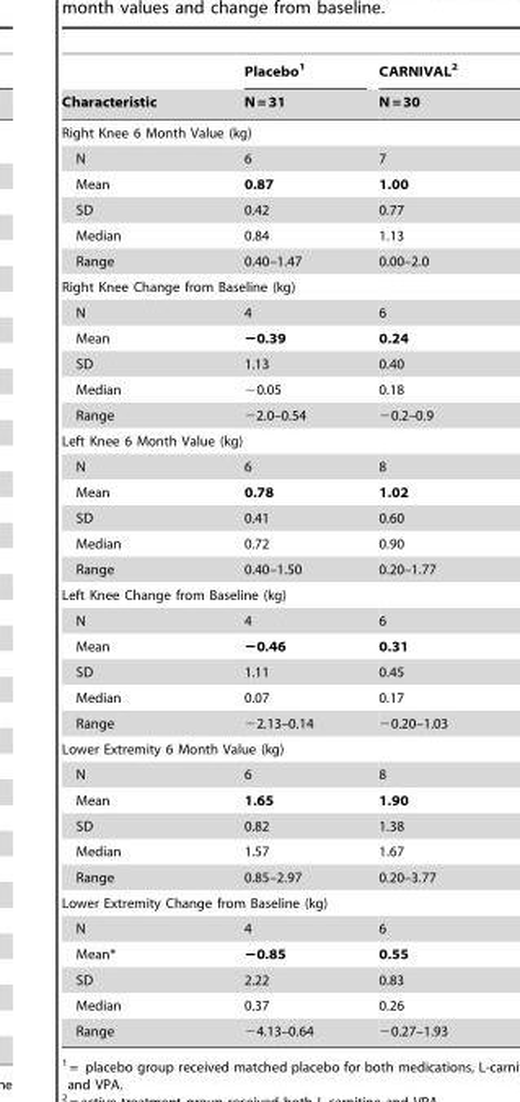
<table><thead><tr><td rowspan="2">Characteristic</td><td rowspan="2">Placebo<sup>1</sup> N = 31</td><td rowspan="2">CARNIVAL<sup>2</sup> N = 30</td></tr><tr></tr></thead><tbody><tr><td colspan="3">Right Knee 6 Month Value (kg)</td></tr><tr><td>N</td><td>6</td><td>7</td></tr><tr><td>Mean</td><td>0.87</td><td>1.00</td></tr><tr><td>SD</td><td>0.42</td><td>0.77</td></tr><tr><td>Median</td><td>0.84</td><td>1.13</td></tr><tr><td>Range</td><td>0.40–1.47</td><td>0.00–2.0</td></tr><tr><td colspan="3">Right Knee Change from Baseline (kg)</td></tr><tr><td>N</td><td>4</td><td>6</td></tr><tr><td>Mean</td><td>−0.39</td><td>0.24</td></tr><tr><td>SD</td><td>1.13</td><td>0.40</td></tr><tr><td>Median</td><td>−0.05</td><td>0.18</td></tr><tr><td>Range</td><td>−2.0–0.54</td><td>−0.2–0.9</td></tr><tr><td colspan="3">Left Knee 6 Month Value (kg)</td></tr><tr><td>N</td><td>6</td><td>8</td></tr><tr><td>Mean</td><td>0.78</td><td>1.02</td></tr><tr><td>SD</td><td>0.41</td><td>0.60</td></tr><tr><td>Median</td><td>0.72</td><td>0.90</td></tr><tr><td>Range</td><td>0.40–1.50</td><td>0.20–1.77</td></tr><tr><td colspan="3">Left Knee Change from Baseline (kg)</td></tr><tr><td>N</td><td>4</td><td>6</td></tr><tr><td>Mean</td><td>−0.46</td><td>0.31</td></tr><tr><td>SD</td><td>1.11</td><td>0.45</td></tr><tr><td>Median</td><td>0.07</td><td>0.17</td></tr><tr><td>Range</td><td>−2.13–0.14</td><td>−0.20–1.03</td></tr><tr><td colspan="3">Lower Extremity 6 Month Value (kg)</td></tr><tr><td>N</td><td>6</td><td>8</td></tr><tr><td>Mean</td><td>1.65</td><td>1.90</td></tr><tr><td>SD</td><td>0.82</td><td>1.38</td></tr><tr><td>Median</td><td>1.57</td><td>1.67</td></tr><tr><td>Range</td><td>0.85–2.97</td><td>0.20–3.77</td></tr><tr><td colspan="3">Lower Extremity Change from Baseline (kg)</td></tr><tr><td>N</td><td>4</td><td>6</td></tr><tr><td>Mean*</td><td>−0.85</td><td>0.55</td></tr><tr><td>SD</td><td>2.22</td><td>0.83</td></tr><tr><td>Median</td><td>0.37</td><td>0.26</td></tr><tr><td>Range</td><td>−4.13–0.64</td><td>−0.27–1.93</td></tr></tbody></table>